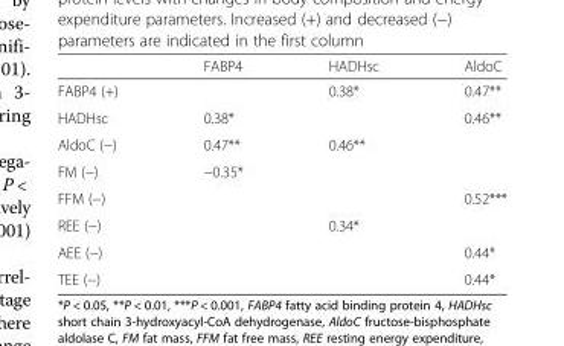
<table><thead><tr><td></td><td>FABP4</td><td>HADHsc</td><td>AldoC</td></tr></thead><tbody><tr><td>FABP4 (+)</td><td></td><td>0.38*</td><td>0.47**</td></tr><tr><td>HADHsc</td><td>0.38*</td><td></td><td>0.46**</td></tr><tr><td>AldoC (−)</td><td>0.47**</td><td>0.46**</td><td></td></tr><tr><td>FM (−)</td><td>−0.35*</td><td></td><td></td></tr><tr><td>FFM (−)</td><td></td><td></td><td>0.52***</td></tr><tr><td>REE (−)</td><td></td><td>0.34*</td><td></td></tr><tr><td>AEE (−)</td><td></td><td></td><td>0.44*</td></tr><tr><td>TEE (−)</td><td></td><td></td><td>0.44*</td></tr></tbody></table>